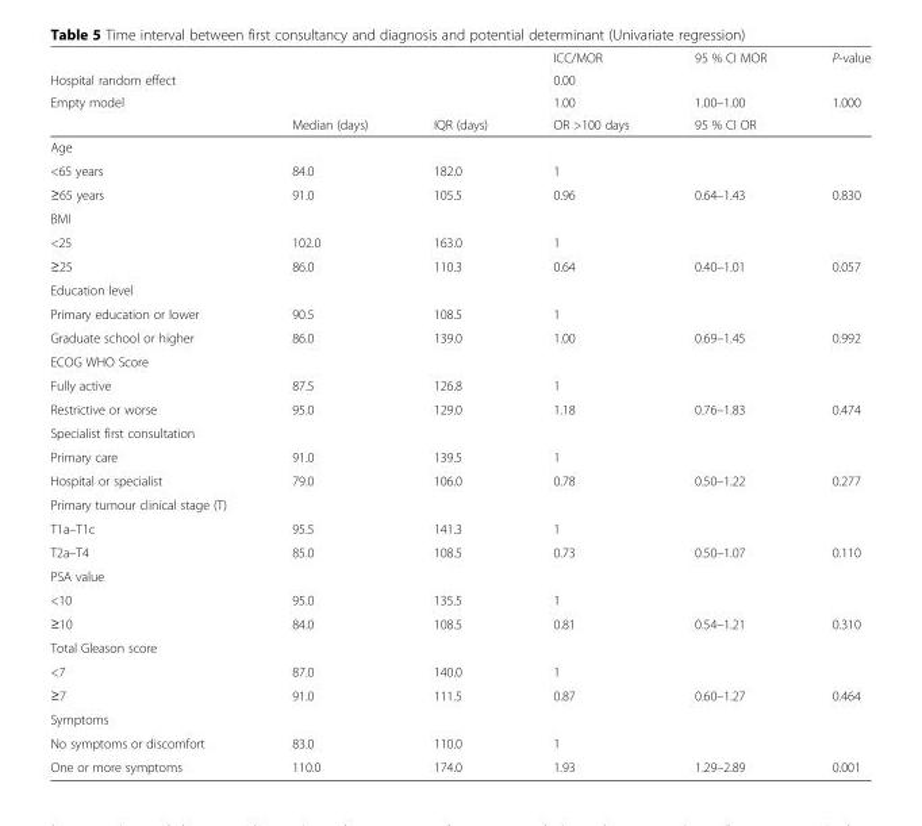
<table><thead><tr><td rowspan="4">Hospital random effect Empty model</td><td rowspan="4">Median (days)</td><td rowspan="4">IQR (days)</td><td rowspan="4">ICC/MOR 0.00 1.00 OR &gt;100 days</td><td rowspan="4">95 % CI MOR 1.00–1.00 95 % CI OR</td><td rowspan="4">P-value 1.000</td></tr><tr></tr><tr></tr><tr></tr></thead><tbody><tr><td colspan="6">Age</td></tr><tr><td>&lt;65 years</td><td>84.0</td><td>182.0</td><td>1</td><td></td><td></td></tr><tr><td>≥65 years</td><td>91.0</td><td>105.5</td><td>0.96</td><td>0.64–1.43</td><td>0.830</td></tr><tr><td colspan="6">BMI</td></tr><tr><td>&lt;25</td><td>102.0</td><td>163.0</td><td>1</td><td></td><td></td></tr><tr><td>≥25</td><td>86.0</td><td>110.3</td><td>0.64</td><td>0.40–1.01</td><td>0.057</td></tr><tr><td colspan="6">Education level</td></tr><tr><td>Primary education or lower</td><td>90.5</td><td>108.5</td><td>1</td><td></td><td></td></tr><tr><td>Graduate school or higher</td><td>86.0</td><td>139.0</td><td>1.00</td><td>0.69–1.45</td><td>0.992</td></tr><tr><td colspan="6">ECOG WHO Score</td></tr><tr><td>Fully active</td><td>87.5</td><td>126.8</td><td>1</td><td></td><td></td></tr><tr><td>Restrictive or worse</td><td>95.0</td><td>129.0</td><td>1.18</td><td>0.76–1.83</td><td>0.474</td></tr><tr><td colspan="6">Specialist first consultation</td></tr><tr><td>Primary care</td><td>91.0</td><td>139.5</td><td>1</td><td></td><td></td></tr><tr><td>Hospital or specialist</td><td>79.0</td><td>106.0</td><td>0.78</td><td>0.50–1.22</td><td>0.277</td></tr><tr><td colspan="6">Primary tumour clinical stage (T)</td></tr><tr><td>T1a–T1c</td><td>95.5</td><td>141.3</td><td>1</td><td></td><td></td></tr><tr><td>T2a–T4</td><td>85.0</td><td>108.5</td><td>0.73</td><td>0.50–1.07</td><td>0.110</td></tr><tr><td colspan="6">PSA value</td></tr><tr><td>&lt;10</td><td>95.0</td><td>135.5</td><td>1</td><td></td><td></td></tr><tr><td>≥10</td><td>84.0</td><td>108.5</td><td>0.81</td><td>0.54–1.21</td><td>0.310</td></tr><tr><td colspan="6">Total Gleason score</td></tr><tr><td>&lt;7</td><td>87.0</td><td>140.0</td><td>1</td><td></td><td></td></tr><tr><td>≥7</td><td>91.0</td><td>111.5</td><td>0.87</td><td>0.60–1.27</td><td>0.464</td></tr><tr><td colspan="6">Symptoms</td></tr><tr><td>No symptoms or discomfort</td><td>83.0</td><td>110.0</td><td>1</td><td></td><td></td></tr><tr><td>One or more symptoms</td><td>110.0</td><td>174.0</td><td>1.93</td><td>1.29–2.89</td><td>0.001</td></tr></tbody></table>